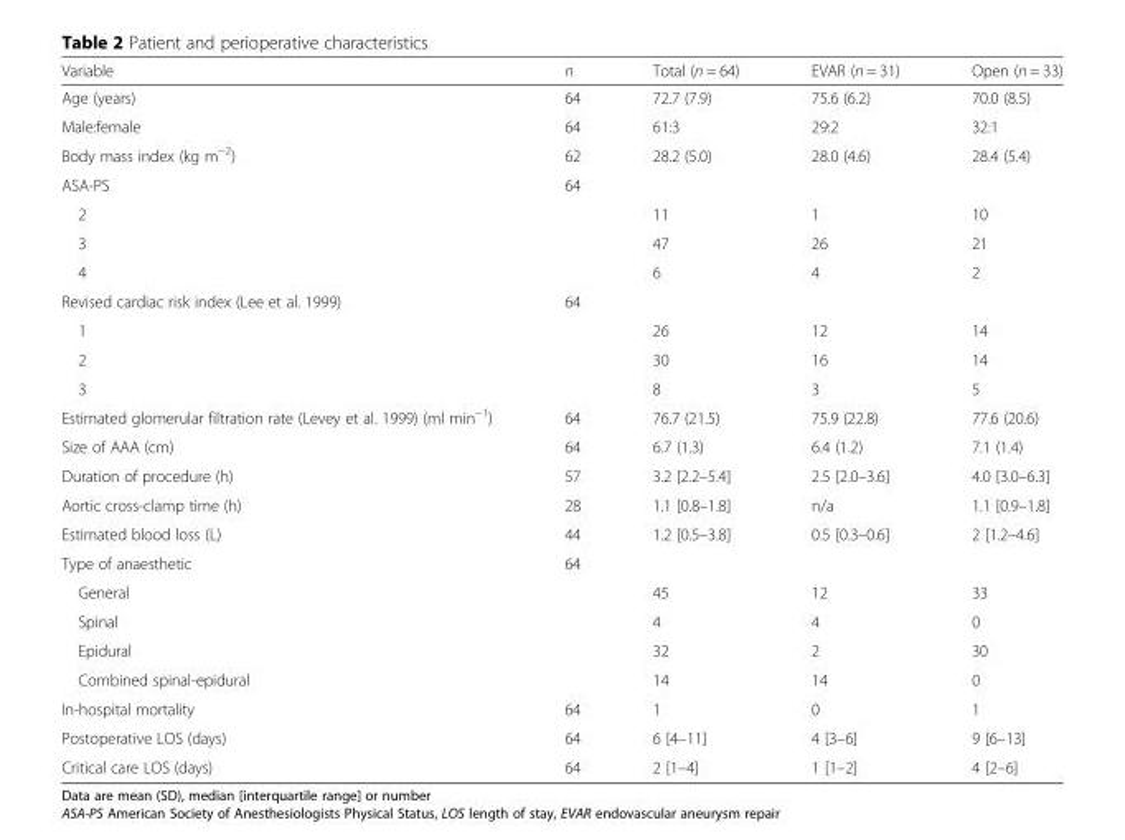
<table><thead><tr><td>Variable</td><td>n</td><td>Total (n = 64)</td><td>EVAR (n = 31)</td><td>Open (n = 33)</td></tr></thead><tbody><tr><td>Age (years)</td><td>64</td><td>72.7 (7.9)</td><td>75.6 (6.2)</td><td>70.0 (8.5)</td></tr><tr><td>Male:female</td><td>64</td><td>61:3</td><td>29:2</td><td>32:1</td></tr><tr><td>Body mass index (kg m<sup>−2</sup>)</td><td>62</td><td>28.2 (5.0)</td><td>28.0 (4.6)</td><td>28.4 (5.4)</td></tr><tr><td>ASA-PS</td><td>64</td><td></td><td></td><td></td></tr><tr><td>2</td><td></td><td>11</td><td>1</td><td>10</td></tr><tr><td>3</td><td></td><td>47</td><td>26</td><td>21</td></tr><tr><td>4</td><td></td><td>6</td><td>4</td><td>2</td></tr><tr><td>Revised cardiac risk index (Lee et al. 1999)</td><td>64</td><td></td><td></td><td></td></tr><tr><td>1</td><td></td><td>26</td><td>12</td><td>14</td></tr><tr><td>2</td><td></td><td>30</td><td>16</td><td>14</td></tr><tr><td>3</td><td></td><td>8</td><td>3</td><td>5</td></tr><tr><td>Estimated glomerular filtration rate (Levey et al. 1999) (ml min<sup>−1</sup>)</td><td>64</td><td>76.7 (21.5)</td><td>75.9 (22.8)</td><td>77.6 (20.6)</td></tr><tr><td>Size of AAA (cm)</td><td>64</td><td>6.7 (1.3)</td><td>6.4 (1.2)</td><td>7.1 (1.4)</td></tr><tr><td>Duration of procedure (h)</td><td>57</td><td>3.2 [2.2–5.4]</td><td>2.5 [2.0–3.6]</td><td>4.0 [3.0–6.3]</td></tr><tr><td>Aortic cross-clamp time (h)</td><td>28</td><td>1.1 [0.8–1.8]</td><td>n/a</td><td>1.1 [0.9–1.8]</td></tr><tr><td>Estimated blood loss (L)</td><td>44</td><td>1.2 [0.5–3.8]</td><td>0.5 [0.3–0.6]</td><td>2 [1.2–4.6]</td></tr><tr><td>Type of anaesthetic</td><td>64</td><td></td><td></td><td></td></tr><tr><td>General</td><td></td><td>45</td><td>12</td><td>33</td></tr><tr><td>Spinal</td><td></td><td>4</td><td>4</td><td>0</td></tr><tr><td>Epidural</td><td></td><td>32</td><td>2</td><td>30</td></tr><tr><td>Combined spinal-epidural</td><td></td><td>14</td><td>14</td><td>0</td></tr><tr><td>In-hospital mortality</td><td>64</td><td>1</td><td>0</td><td>1</td></tr><tr><td>Postoperative LOS (days)</td><td>64</td><td>6 [4–11]</td><td>4 [3–6]</td><td>9 [6–13]</td></tr><tr><td>Critical care LOS (days)</td><td>64</td><td>2 [1–4]</td><td>1 [1–2]</td><td>4 [2–6]</td></tr></tbody></table>